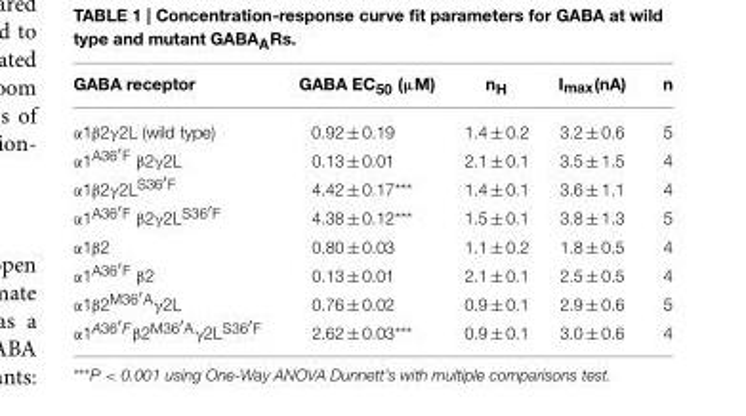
<table><thead><tr><td>GABA receptor</td><td>GABA EC<sub>50</sub> (µM)</td><td>n<sub>H</sub></td><td>I<sub>max</sub>(nA)</td><td>n</td></tr></thead><tbody><tr><td>α1β2γ2L (wild type)</td><td>0.92 ± 0.19</td><td>1.4 ± 0.2</td><td>3.2 ± 0.6</td><td>5</td></tr><tr><td>α1<sup>A36′F</sup> β2γ2L</td><td>0.13 ± 0.01</td><td>2.1 ± 0.1</td><td>3.5 ± 1.5</td><td>4</td></tr><tr><td>α1β2γ2L<sup>S36′F</sup></td><td>4.42 ± 0.17***</td><td>1.4 ± 0.1</td><td>3.6 ± 1.1</td><td>4</td></tr><tr><td>α1<sup>A36′F</sup> β2γ2L<sup>S36′F</sup></td><td>4.38 ± 0.12***</td><td>1.5 ± 0.1</td><td>3.8 ± 1.3</td><td>5</td></tr><tr><td>α1β2</td><td>0.80 ± 0.03</td><td>1.1 ± 0.2</td><td>1.8 ± 0.5</td><td>4</td></tr><tr><td>α1<sup>A36′F</sup> β2</td><td>0.13 ± 0.01</td><td>2.1 ± 0.1</td><td>2.5 ± 0.5</td><td>4</td></tr><tr><td>α1β2<sup>M36′A</sup>γ2L</td><td>0.76 ± 0.02</td><td>0.9 ± 0.1</td><td>2.9 ± 0.6</td><td>5</td></tr><tr><td>α1<sup>A36′F</sup>β2<sup>M36′A</sup>γ2L<sup>S36′F</sup></td><td>2.62 ± 0.03***</td><td>0.9 ± 0.1</td><td>3.0 ± 0.6</td><td>4</td></tr></tbody></table>